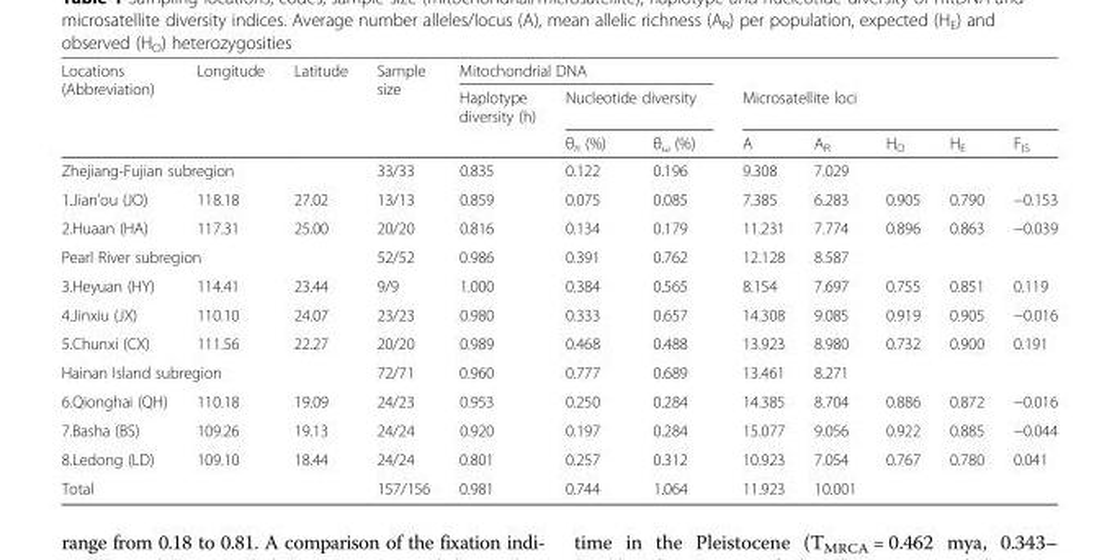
<table><thead><tr><td rowspan="3">Locations (Abbreviation)</td><td rowspan="3">Longitude</td><td rowspan="3">Latitude</td><td rowspan="3">Sample size</td><td colspan="3">Mitochondrial DNA</td><td></td><td></td><td></td><td></td><td></td></tr><tr><td rowspan="2">Haplotype diversity (h)</td><td colspan="2">Nucleotide diversity</td><td colspan="5">Microsatellite loci</td></tr><tr><td>θ<sub>π</sub> (%)</td><td>θ<sub>ω</sub> (%)</td><td>A</td><td>A<sub>R</sub></td><td>H<sub>O</sub></td><td>H<sub>E</sub></td><td>F<sub>IS</sub></td></tr></thead><tbody><tr><td colspan="2">Zhejiang-Fujian subregion</td><td></td><td>33/33</td><td>0.835</td><td>0.122</td><td>0.196</td><td>9.308</td><td>7.029</td><td></td><td></td><td></td></tr><tr><td>1.Jian’ou (JO)</td><td>118.18</td><td>27.02</td><td>13/13</td><td>0.859</td><td>0.075</td><td>0.085</td><td>7.385</td><td>6.283</td><td>0.905</td><td>0.790</td><td>−0.153</td></tr><tr><td>2.Huaan (HA)</td><td>117.31</td><td>25.00</td><td>20/20</td><td>0.816</td><td>0.134</td><td>0.179</td><td>11.231</td><td>7.774</td><td>0.896</td><td>0.863</td><td>−0.039</td></tr><tr><td colspan="2">Pearl River subregion</td><td></td><td>52/52</td><td>0.986</td><td>0.391</td><td>0.762</td><td>12.128</td><td>8.587</td><td></td><td></td><td></td></tr><tr><td>3.Heyuan (HY)</td><td>114.41</td><td>23.44</td><td>9/9</td><td>1.000</td><td>0.384</td><td>0.565</td><td>8.154</td><td>7.697</td><td>0.755</td><td>0.851</td><td>0.119</td></tr><tr><td>4.Jinxiu (JX)</td><td>110.10</td><td>24.07</td><td>23/23</td><td>0.980</td><td>0.333</td><td>0.657</td><td>14.308</td><td>9.085</td><td>0.919</td><td>0.905</td><td>−0.016</td></tr><tr><td>5.Chunxi (CX)</td><td>111.56</td><td>22.27</td><td>20/20</td><td>0.989</td><td>0.468</td><td>0.488</td><td>13.923</td><td>8.980</td><td>0.732</td><td>0.900</td><td>0.191</td></tr><tr><td colspan="2">Hainan Island subregion</td><td></td><td>72/71</td><td>0.960</td><td>0.777</td><td>0.689</td><td>13.461</td><td>8.271</td><td></td><td></td><td></td></tr><tr><td>6.Qionghai (QH)</td><td>110.18</td><td>19.09</td><td>24/23</td><td>0.953</td><td>0.250</td><td>0.284</td><td>14.385</td><td>8.704</td><td>0.886</td><td>0.872</td><td>−0.016</td></tr><tr><td>7.Basha (BS)</td><td>109.26</td><td>19.13</td><td>24/24</td><td>0.920</td><td>0.197</td><td>0.284</td><td>15.077</td><td>9.056</td><td>0.922</td><td>0.885</td><td>−0.044</td></tr><tr><td>8.Ledong (LD)</td><td>109.10</td><td>18.44</td><td>24/24</td><td>0.801</td><td>0.257</td><td>0.312</td><td>10.923</td><td>7.054</td><td>0.767</td><td>0.780</td><td>0.041</td></tr><tr><td>Total</td><td></td><td></td><td>157/156</td><td>0.981</td><td>0.744</td><td>1.064</td><td>11.923</td><td>10.001</td><td></td><td></td><td></td></tr></tbody></table>